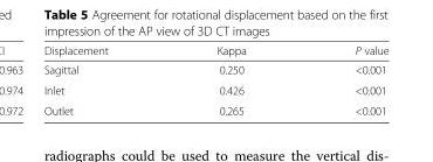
<table><thead><tr><td>Displacement</td><td>Kappa</td><td>P value</td></tr></thead><tbody><tr><td>Sagittal</td><td>0.250</td><td>&lt;0.001</td></tr><tr><td>Inlet</td><td>0.426</td><td>&lt;0.001</td></tr><tr><td>Outlet</td><td>0.265</td><td>&lt;0.001</td></tr></tbody></table>